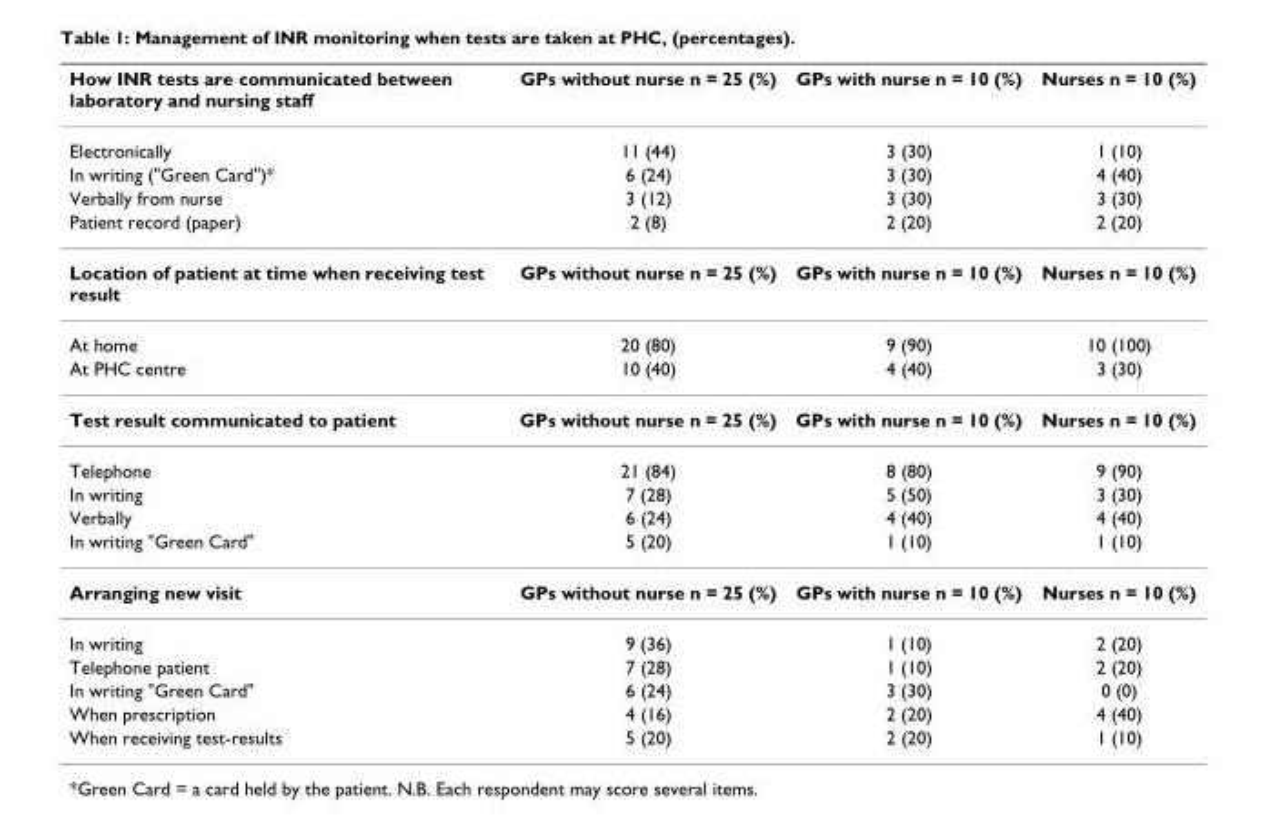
<table><thead><tr><td>How INR tests are communicated between laboratory and nursing staff</td><td>GPs without nurse n = 25 (%)</td><td>GPs with nurse n = 10 (%)</td><td>Nurses n = 10 (%)</td></tr></thead><tbody><tr><td>Electronically</td><td>11 (44)</td><td>3 (30)</td><td>1 (10)</td></tr><tr><td>In writing (&quot;Green Card&quot;)*</td><td>6 (24)</td><td>3 (30)</td><td>4 (40)</td></tr><tr><td>Verbally from nurse</td><td>3 (12)</td><td>3 (30)</td><td>3 (30)</td></tr><tr><td>Patient record (paper)</td><td>2 (8)</td><td>2 (20)</td><td>2 (20)</td></tr><tr><td>Location of patient at time when receiving test result</td><td>GPs without nurse n = 25 (%)</td><td>GPs with nurse n = 10 (%)</td><td>Nurses n = 10 (%)</td></tr><tr><td>At home</td><td>20 (80)</td><td>9 (90)</td><td>10 (100)</td></tr><tr><td>At PHC centre</td><td>10 (40)</td><td>4 (40)</td><td>3 (30)</td></tr><tr><td>Test result communicated to patient</td><td>GPs without nurse n = 25 (%)</td><td>GPs with nurse n = 10 (%)</td><td>Nurses n = 10 (%)</td></tr><tr><td>Telephone</td><td>21 (84)</td><td>8 (80)</td><td>9 (90)</td></tr><tr><td>In writing</td><td>7 (28)</td><td>5 (50)</td><td>3 (30)</td></tr><tr><td>Verbally</td><td>6 (24)</td><td>4 (40)</td><td>4 (40)</td></tr><tr><td>In writing &quot;Green Card&quot;</td><td>5 (20)</td><td>1 (10)</td><td>1 (10)</td></tr><tr><td>Arranging new visit</td><td>GPs without nurse n = 25 (%)</td><td>GPs with nurse n = 10 (%)</td><td>Nurses n = 10 (%)</td></tr><tr><td>In writing</td><td>9 (36)</td><td>1 (10)</td><td>2 (20)</td></tr><tr><td>Telephone patient</td><td>7 (28)</td><td>1 (10)</td><td>2 (20)</td></tr><tr><td>In writing &quot;Green Card&quot;</td><td>6 (24)</td><td>3 (30)</td><td>0 (0)</td></tr><tr><td>When prescription</td><td>4 (16)</td><td>2 (20)</td><td>4 (40)</td></tr><tr><td>When receiving test-results</td><td>5 (20)</td><td>2 (20)</td><td>1 (10)</td></tr></tbody></table>